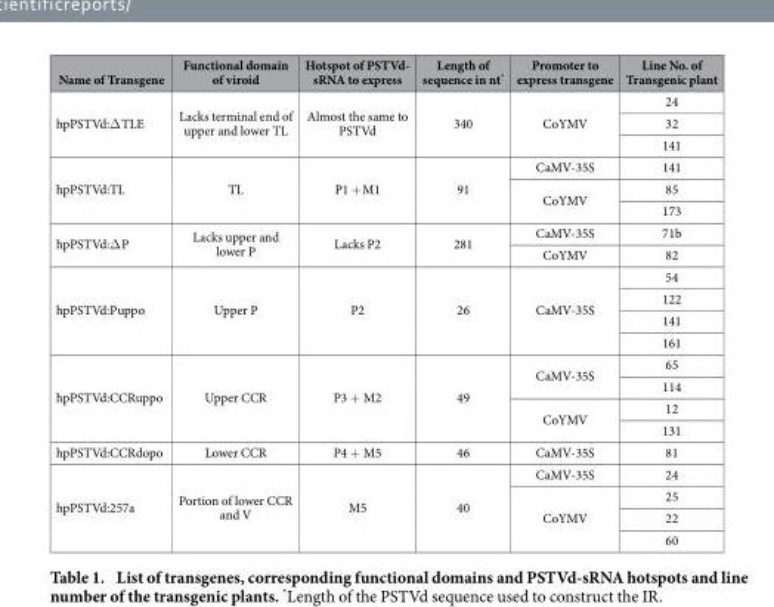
<table><thead><tr><td>Name of Transgene</td><td>Functional domain of viroid</td><td>Hotspot of PSTVd- sRNA to express</td><td>Length of sequence in nt*</td><td>Promoter to express transgene</td><td>Line No. of Transgenic plant</td></tr></thead><tbody><tr><td rowspan="3">hpPSTVd:Δ TLE</td><td rowspan="3">Lacks terminal end of upper and lower TL</td><td rowspan="3">Almost the same to PSTVd</td><td rowspan="3">340</td><td rowspan="3">CoYMV</td><td>24</td></tr><tr><td>32</td></tr><tr><td>141</td></tr><tr><td rowspan="3">hpPSTVd:TL</td><td rowspan="3">TL</td><td rowspan="3">P1 + M1</td><td rowspan="3">91</td><td>CaMV-35S</td><td>141</td></tr><tr><td rowspan="2">CoYMV</td><td>85</td></tr><tr><td>173</td></tr><tr><td rowspan="2">hpPSTVd:Δ P</td><td rowspan="2">Lacks upper and lower P</td><td rowspan="2">Lacks P2</td><td rowspan="2">281</td><td>CaMV-35S</td><td>71b</td></tr><tr><td>CoYMV</td><td>82</td></tr><tr><td rowspan="4">hpPSTVd:Puppo</td><td rowspan="4">Upper P</td><td rowspan="4">P2</td><td rowspan="4">26</td><td rowspan="4">CaMV-35S</td><td>54</td></tr><tr><td>122</td></tr><tr><td>141</td></tr><tr><td>161</td></tr><tr><td rowspan="4">hpPSTVd:CCRuppo</td><td rowspan="4">Upper CCR</td><td rowspan="4">P3 + M2</td><td rowspan="4">49</td><td rowspan="2">CaMV-35S</td><td>65</td></tr><tr><td>114</td></tr><tr><td rowspan="2">CoYMV</td><td>12</td></tr><tr><td>131</td></tr><tr><td>hpPSTVd:CCRdopo</td><td>Lower CCR</td><td>P4 + M5</td><td>46</td><td>CaMV-35S</td><td>81</td></tr><tr><td rowspan="4">hpPSTVd:257a</td><td rowspan="4">Portion of lower CCR and V</td><td rowspan="4">M5</td><td rowspan="4">40</td><td>CaMV-35S</td><td>24</td></tr><tr><td rowspan="3">CoYMV</td><td>25</td></tr><tr><td>22</td></tr><tr><td>60</td></tr></tbody></table>